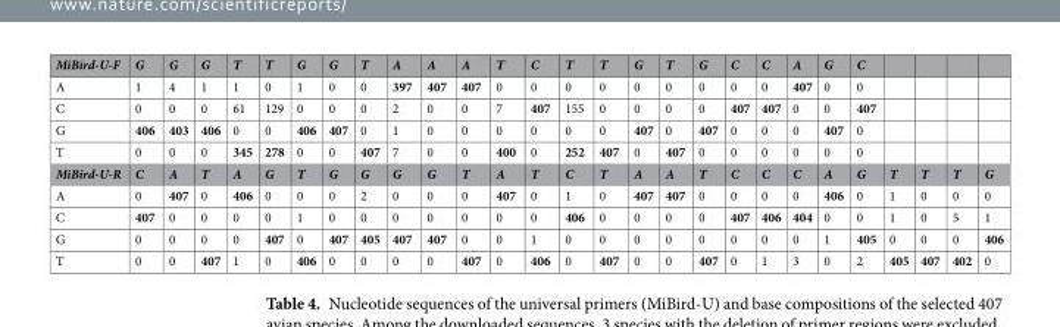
<table><thead><tr><td>MiBird-U-F</td><td>G</td><td>G</td><td>G</td><td>T</td><td>T</td><td>G</td><td>G</td><td>T</td><td>A</td><td>A</td><td>A</td><td>T</td><td>C</td><td>T</td><td>T</td><td>G</td><td>T</td><td>G</td><td>C</td><td>C</td><td>A</td><td>G</td><td>C</td><td></td><td></td><td></td><td></td></tr></thead><tbody><tr><td>A</td><td>1</td><td>4</td><td>1</td><td>1</td><td>0</td><td>1</td><td>0</td><td>0</td><td>397</td><td>407</td><td>407</td><td>0</td><td>0</td><td>0</td><td>0</td><td>0</td><td>0</td><td>0</td><td>0</td><td>0</td><td>407</td><td>0</td><td>0</td><td></td><td></td><td></td><td></td></tr><tr><td>C</td><td>0</td><td>0</td><td>0</td><td>61</td><td>129</td><td>0</td><td>0</td><td>0</td><td>2</td><td>0</td><td>0</td><td>7</td><td>407</td><td>155</td><td>0</td><td>0</td><td>0</td><td>0</td><td>407</td><td>407</td><td>0</td><td>0</td><td>407</td><td></td><td></td><td></td><td></td></tr><tr><td>G</td><td>406</td><td>403</td><td>406</td><td>0</td><td>0</td><td>406</td><td>407</td><td>0</td><td>1</td><td>0</td><td>0</td><td>0</td><td>0</td><td>0</td><td>0</td><td>407</td><td>0</td><td>407</td><td>0</td><td>0</td><td>0</td><td>407</td><td>0</td><td></td><td></td><td></td><td></td></tr><tr><td>T</td><td>0</td><td>0</td><td>0</td><td>345</td><td>278</td><td>0</td><td>0</td><td>407</td><td>7</td><td>0</td><td>0</td><td>400</td><td>0</td><td>252</td><td>407</td><td>0</td><td>407</td><td>0</td><td>0</td><td>0</td><td>0</td><td>0</td><td>0</td><td></td><td></td><td></td><td></td></tr><tr><td>MiBird-U-R</td><td>C</td><td>A</td><td>T</td><td>A</td><td>G</td><td>T</td><td>G</td><td>G</td><td>G</td><td>G</td><td>T</td><td>A</td><td>T</td><td>C</td><td>T</td><td>A</td><td>A</td><td>T</td><td>C</td><td>C</td><td>C</td><td>A</td><td>G</td><td>T</td><td>T</td><td>T</td><td>G</td></tr><tr><td>A</td><td>0</td><td>407</td><td>0</td><td>406</td><td>0</td><td>0</td><td>0</td><td>2</td><td>0</td><td>0</td><td>0</td><td>407</td><td>0</td><td>1</td><td>0</td><td>407</td><td>407</td><td>0</td><td>0</td><td>0</td><td>0</td><td>406</td><td>0</td><td>1</td><td>0</td><td>0</td><td>0</td></tr><tr><td>C</td><td>407</td><td>0</td><td>0</td><td>0</td><td>0</td><td>1</td><td>0</td><td>0</td><td>0</td><td>0</td><td>0</td><td>0</td><td>0</td><td>406</td><td>0</td><td>0</td><td>0</td><td>0</td><td>407</td><td>406</td><td>404</td><td>0</td><td>0</td><td>1</td><td>0</td><td>5</td><td>1</td></tr><tr><td>G</td><td>0</td><td>0</td><td>0</td><td>0</td><td>407</td><td>0</td><td>407</td><td>405</td><td>407</td><td>407</td><td>0</td><td>0</td><td>1</td><td>0</td><td>0</td><td>0</td><td>0</td><td>0</td><td>0</td><td>0</td><td>0</td><td>1</td><td>405</td><td>0</td><td>0</td><td>0</td><td>406</td></tr><tr><td>T</td><td>0</td><td>0</td><td>407</td><td>1</td><td>0</td><td>406</td><td>0</td><td>0</td><td>0</td><td>0</td><td>407</td><td>0</td><td>406</td><td>0</td><td>407</td><td>0</td><td>0</td><td>407</td><td>0</td><td>1</td><td>3</td><td>0</td><td>2</td><td>405</td><td>407</td><td>402</td><td>0</td></tr></tbody></table>